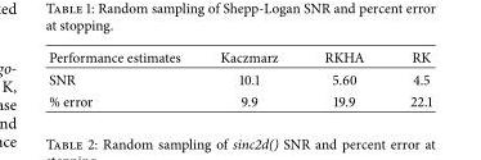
<table><thead><tr><td>Performance estimates</td><td>Kaczmarz</td><td>RKHA</td><td>RK</td></tr></thead><tbody><tr><td>SNR</td><td>10.1</td><td>5.60</td><td>4.5</td></tr><tr><td>% error</td><td>9.9</td><td>19.9</td><td>22.1</td></tr></tbody></table>